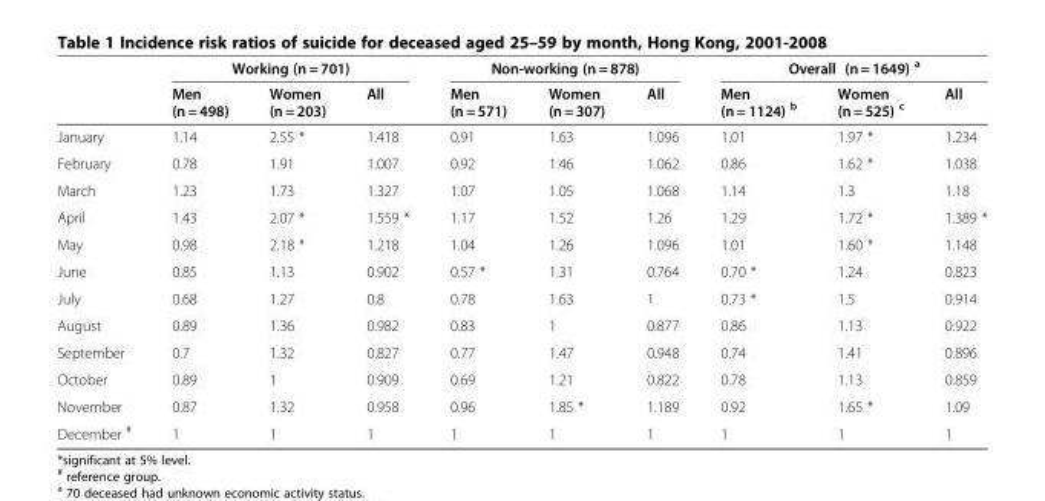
<table><thead><tr><td rowspan="2"></td><td colspan="3">Working (n = 701)</td><td colspan="3">Non-working (n = 878)</td><td colspan="3">Overall (n = 1649) <sup>a</sup></td></tr><tr><td>Men (n = 498)</td><td>Women (n = 203)</td><td>All</td><td>Men (n = 571)</td><td>Women (n = 307)</td><td>All</td><td>Men (n = 1124) <sup>b</sup></td><td>Women (n = 525) <sup>c</sup></td><td>All</td></tr></thead><tbody><tr><td>January</td><td>1.14</td><td>2.55 *</td><td>1.418</td><td>0.91</td><td>1.63</td><td>1.096</td><td>1.01</td><td>1.97 *</td><td>1.234</td></tr><tr><td>February</td><td>0.78</td><td>1.91</td><td>1.007</td><td>0.92</td><td>1.46</td><td>1.062</td><td>0.86</td><td>1.62 *</td><td>1.038</td></tr><tr><td>March</td><td>1.23</td><td>1.73</td><td>1.327</td><td>1.07</td><td>1.05</td><td>1.068</td><td>1.14</td><td>1.3</td><td>1.18</td></tr><tr><td>April</td><td>1.43</td><td>2.07 *</td><td>1.559 *</td><td>1.17</td><td>1.52</td><td>1.26</td><td>1.29</td><td>1.72 *</td><td>1.389 *</td></tr><tr><td>May</td><td>0.98</td><td>2.18 *</td><td>1.218</td><td>1.04</td><td>1.26</td><td>1.096</td><td>1.01</td><td>1.60 *</td><td>1.148</td></tr><tr><td>June</td><td>0.85</td><td>1.13</td><td>0.902</td><td>0.57 *</td><td>1.31</td><td>0.764</td><td>0.70 *</td><td>1.24</td><td>0.823</td></tr><tr><td>July</td><td>0.68</td><td>1.27</td><td>0.8</td><td>0.78</td><td>1.63</td><td>1</td><td>0.73 *</td><td>1.5</td><td>0.914</td></tr><tr><td>August</td><td>0.89</td><td>1.36</td><td>0.982</td><td>0.83</td><td>1</td><td>0.877</td><td>0.86</td><td>1.13</td><td>0.922</td></tr><tr><td>September</td><td>0.7</td><td>1.32</td><td>0.827</td><td>0.77</td><td>1.47</td><td>0.948</td><td>0.74</td><td>1.41</td><td>0.896</td></tr><tr><td>October</td><td>0.89</td><td>1</td><td>0.909</td><td>0.69</td><td>1.21</td><td>0.822</td><td>0.78</td><td>1.13</td><td>0.859</td></tr><tr><td>November</td><td>0.87</td><td>1.32</td><td>0.958</td><td>0.96</td><td>1.85 *</td><td>1.189</td><td>0.92</td><td>1.65 *</td><td>1.09</td></tr><tr><td>December <sup>#</sup></td><td>1</td><td>1</td><td>1</td><td>1</td><td>1</td><td>1</td><td>1</td><td>1</td><td>1</td></tr></tbody></table>